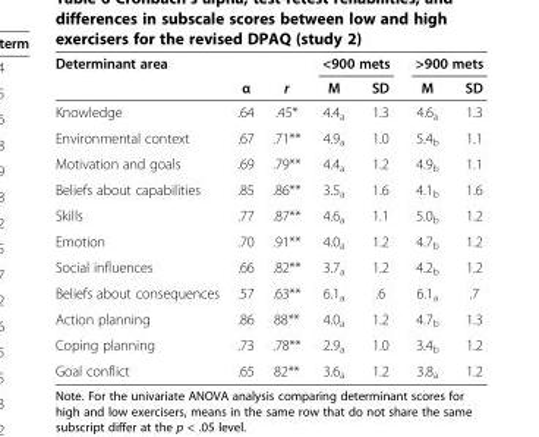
<table><thead><tr><td rowspan="2">Determinant area</td><td rowspan="2">α</td><td rowspan="2">r</td><td colspan="2">&lt;900 mets</td><td colspan="2">&gt;900 mets</td></tr><tr><td>M</td><td>SD</td><td>M</td><td>SD</td></tr></thead><tbody><tr><td>Knowledge</td><td>.64</td><td>.45*</td><td>4.4<sub>a</sub></td><td>1.3</td><td>4.6<sub>a</sub></td><td>1.3</td></tr><tr><td>Environmental context</td><td>.67</td><td>.71**</td><td>4.9<sub>a</sub></td><td>1.0</td><td>5.4<sub>b</sub></td><td>1.1</td></tr><tr><td>Motivation and goals</td><td>.69</td><td>.79**</td><td>4.4<sub>a</sub></td><td>1.2</td><td>4.9<sub>b</sub></td><td>1.1</td></tr><tr><td>Beliefs about capabilities</td><td>.85</td><td>.86**</td><td>3.5<sub>a</sub></td><td>1.6</td><td>4.1<sub>b</sub></td><td>1.6</td></tr><tr><td>Skills</td><td>.77</td><td>.87**</td><td>4.6<sub>a</sub></td><td>1.1</td><td>5.0<sub>b</sub></td><td>1.2</td></tr><tr><td>Emotion</td><td>.70</td><td>.91**</td><td>4.0<sub>a</sub></td><td>1.2</td><td>4.7<sub>b</sub></td><td>1.2</td></tr><tr><td>Social influences</td><td>.66</td><td>.82**</td><td>3.7<sub>a</sub></td><td>1.2</td><td>4.2<sub>b</sub></td><td>1.2</td></tr><tr><td>Beliefs about consequences</td><td>.57</td><td>.63**</td><td>6.1<sub>a</sub></td><td>.6</td><td>6.1<sub>a</sub></td><td>.7</td></tr><tr><td>Action planning</td><td>.86</td><td>88**</td><td>4.0<sub>a</sub></td><td>1.2</td><td>4.7<sub>b</sub></td><td>1.3</td></tr><tr><td>Coping planning</td><td>.73</td><td>.78**</td><td>2.9<sub>a</sub></td><td>1.0</td><td>3.4<sub>b</sub></td><td>1.2</td></tr><tr><td>Goal conflict</td><td>.65</td><td>82**</td><td>3.6<sub>a</sub></td><td>1.2</td><td>3.8<sub>a</sub></td><td>1.2</td></tr></tbody></table>